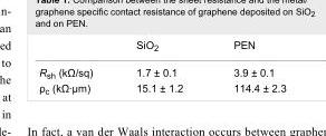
<table><thead><tr><td></td><td>SiO<sub>2</sub></td><td>PEN</td></tr></thead><tbody><tr><td>R<sub>sh</sub> (kΩ/sq)</td><td>1.7 ± 0.1</td><td>3.9 ± 0.1</td></tr><tr><td>ρ<sub>c</sub> (kΩ·μm)</td><td>15.1 ± 1.2</td><td>114.4 ± 2.3</td></tr></tbody></table>